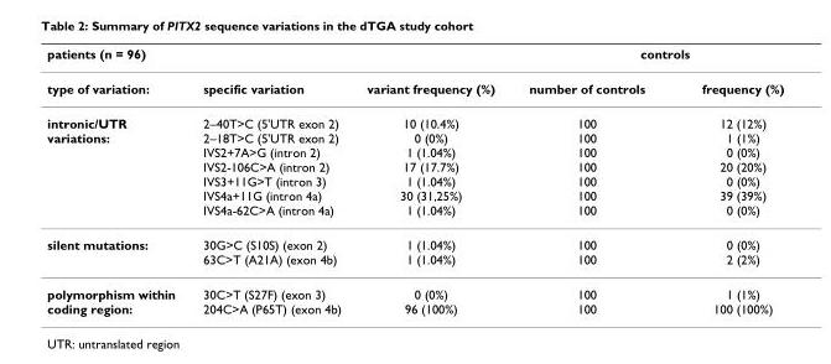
<table><thead><tr><td colspan="3">patients (n = 96)</td><td colspan="2">controls</td></tr><tr><td>type of variation:</td><td>specific variation</td><td>variant frequency (%)</td><td>number of controls</td><td>frequency (%)</td></tr></thead><tbody><tr><td>intronic/UTR variations:</td><td>2–40T&gt;C (5&#x27;UTR exon 2) 2–18T&gt;C (5&#x27;UTR exon 2) IVS2+7A&gt;G (intron 2) IVS2-106C&gt;A (intron 2) IVS3+11G&gt;T (intron 3) IVS4a+11G (intron 4a) IVS4a-62C&gt;A (intron 4a)</td><td>10 (10.4%) 0 (0%) 1 (1.04%) 17 (17.7%) 1 (1.04%) 30 (31,25%) 1 (1.04%)</td><td>100 100 100 100 100 100 100</td><td>12 (12%) 1 (1%) 0 (0%) 20 (20%) 0 (0%) 39 (39%) 0 (0%)</td></tr><tr><td>silent mutations:</td><td>30G&gt;C (S10S) (exon 2) 63C&gt;T (A21A) (exon 4b)</td><td>1 (1.04%) 1 (1.04%)</td><td>100 100</td><td>0 (0%) 2 (2%)</td></tr><tr><td>polymorphism within coding region:</td><td>30C&gt;T (S27F) (exon 3) 204C&gt;A (P65T) (exon 4b)</td><td>0 (0%) 96 (100%)</td><td>100 100</td><td>1 (1%) 100 (100%)</td></tr></tbody></table>